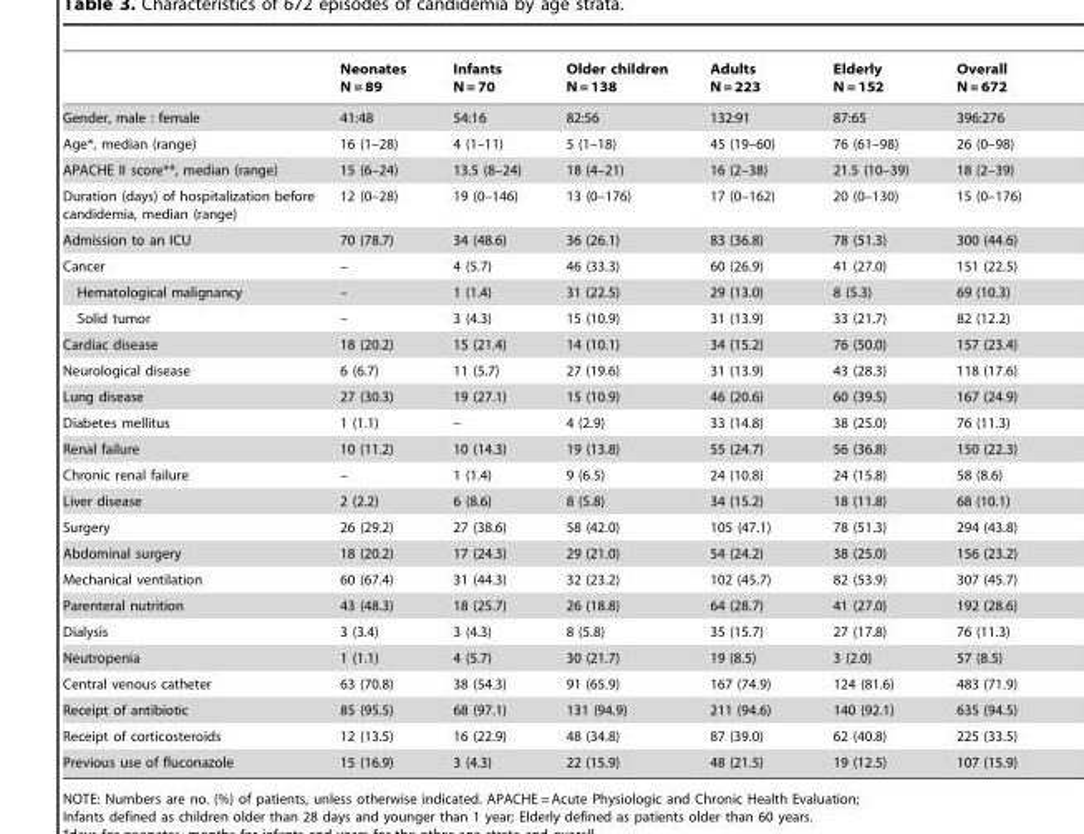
<table><thead><tr><td></td><td>Neonates N = 89</td><td>Infants N = 70</td><td>Older children N = 138</td><td>Adults N = 223</td><td>Elderly N = 152</td><td>Overall N = 672</td></tr></thead><tbody><tr><td>Gender, male : female</td><td>41:48</td><td>54:16</td><td>82:56</td><td>132:91</td><td>87:65</td><td>396:276</td></tr><tr><td>Age*, median (range)</td><td>16 (1–28)</td><td>4 (1–11)</td><td>5 (1–18)</td><td>45 (19–60)</td><td>76 (61–98)</td><td>26 (0–98)</td></tr><tr><td>APACHE II score**, median (range)</td><td>15 (6–24)</td><td>13.5 (8–24)</td><td>18 (4–21)</td><td>16 (2–38)</td><td>21.5 (10–39)</td><td>18 (2–39)</td></tr><tr><td>Duration (days) of hospitalization before candidemia, median (range)</td><td>12 (0–28)</td><td>19 (0–146)</td><td>13 (0–176)</td><td>17 (0–162)</td><td>20 (0–130)</td><td>15 (0–176)</td></tr><tr><td>Admission to an ICU</td><td>70 (78.7)</td><td>34 (48.6)</td><td>36 (26.1)</td><td>83 (36.8)</td><td>78 (51.3)</td><td>300 (44.6)</td></tr><tr><td>Cancer</td><td>–</td><td>4 (5.7)</td><td>46 (33.3)</td><td>60 (26.9)</td><td>41 (27.0)</td><td>151 (22.5)</td></tr><tr><td>Hematological malignancy</td><td>–</td><td>1 (1.4)</td><td>31 (22.5)</td><td>29 (13.0)</td><td>8 (5.3)</td><td>69 (10.3)</td></tr><tr><td>Solid tumor</td><td>–</td><td>3 (4.3)</td><td>15 (10.9)</td><td>31 (13.9)</td><td>33 (21.7)</td><td>82 (12.2)</td></tr><tr><td>Cardiac disease</td><td>18 (20.2)</td><td>15 (21.4)</td><td>14 (10.1)</td><td>34 (15.2)</td><td>76 (50.0)</td><td>157 (23.4)</td></tr><tr><td>Neurological disease</td><td>6 (6.7)</td><td>11 (5.7)</td><td>27 (19.6)</td><td>31 (13.9)</td><td>43 (28.3)</td><td>118 (17.6)</td></tr><tr><td>Lung disease</td><td>27 (30.3)</td><td>19 (27.1)</td><td>15 (10.9)</td><td>46 (20.6)</td><td>60 (39.5)</td><td>167 (24.9)</td></tr><tr><td>Diabetes mellitus</td><td>1 (1.1)</td><td>–</td><td>4 (2.9)</td><td>33 (14.8)</td><td>38 (25.0)</td><td>76 (11.3)</td></tr><tr><td>Renal failure</td><td>10 (11.2)</td><td>10 (14.3)</td><td>19 (13.8)</td><td>55 (24.7)</td><td>56 (36.8)</td><td>150 (22.3)</td></tr><tr><td>Chronic renal failure</td><td>–</td><td>1 (1.4)</td><td>9 (6.5)</td><td>24 (10.8)</td><td>24 (15.8)</td><td>58 (8.6)</td></tr><tr><td>Liver disease</td><td>2 (2.2)</td><td>6 (8.6)</td><td>8 (5.8)</td><td>34 (15.2)</td><td>18 (11.8)</td><td>68 (10.1)</td></tr><tr><td>Surgery</td><td>26 (29.2)</td><td>27 (38.6)</td><td>58 (42.0)</td><td>105 (47.1)</td><td>78 (51.3)</td><td>294 (43.8)</td></tr><tr><td>Abdominal surgery</td><td>18 (20.2)</td><td>17 (24.3)</td><td>29 (21.0)</td><td>54 (24.2)</td><td>38 (25.0)</td><td>156 (23.2)</td></tr><tr><td>Mechanical ventilation</td><td>60 (67.4)</td><td>31 (44.3)</td><td>32 (23.2)</td><td>102 (45.7)</td><td>82 (53.9)</td><td>307 (45.7)</td></tr><tr><td>Parenteral nutrition</td><td>43 (48.3)</td><td>18 (25.7)</td><td>26 (18.8)</td><td>64 (28.7)</td><td>41 (27.0)</td><td>192 (28.6)</td></tr><tr><td>Dialysis</td><td>3 (3.4)</td><td>3 (4.3)</td><td>8 (5.8)</td><td>35 (15.7)</td><td>27 (17.8)</td><td>76 (11.3)</td></tr><tr><td>Neutropenia</td><td>1 (1.1)</td><td>4 (5.7)</td><td>30 (21.7)</td><td>19 (8.5)</td><td>3 (2.0)</td><td>57 (8.5)</td></tr><tr><td>Central venous catheter</td><td>63 (70.8)</td><td>38 (54.3)</td><td>91 (65.9)</td><td>167 (74.9)</td><td>124 (81.6)</td><td>483 (71.9)</td></tr><tr><td>Receipt of antibiotic</td><td>85 (95.5)</td><td>68 (97.1)</td><td>131 (94.9)</td><td>211 (94.6)</td><td>140 (92.1)</td><td>635 (94.5)</td></tr><tr><td>Receipt of corticosteroids</td><td>12 (13.5)</td><td>16 (22.9)</td><td>48 (34.8)</td><td>87 (39.0)</td><td>62 (40.8)</td><td>225 (33.5)</td></tr><tr><td>Previous use of fluconazole</td><td>15 (16.9)</td><td>3 (4.3)</td><td>22 (15.9)</td><td>48 (21.5)</td><td>19 (12.5)</td><td>107 (15.9)</td></tr></tbody></table>